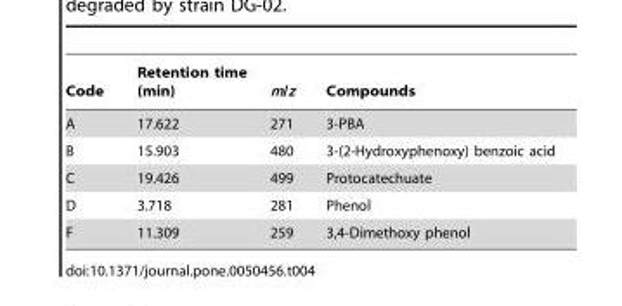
<table><thead><tr><td>Code</td><td>Retention time (min)</td><td>m/z</td><td>Compounds</td></tr></thead><tbody><tr><td>A</td><td>17.622</td><td>271</td><td>3-PBA</td></tr><tr><td>B</td><td>15.903</td><td>480</td><td>3-(2-Hydroxyphenoxy) benzoic acid</td></tr><tr><td>C</td><td>19.426</td><td>499</td><td>Protocatechuate</td></tr><tr><td>D</td><td>3.718</td><td>281</td><td>Phenol</td></tr><tr><td>F</td><td>11.309</td><td>259</td><td>3,4-Dimethoxy phenol</td></tr></tbody></table>